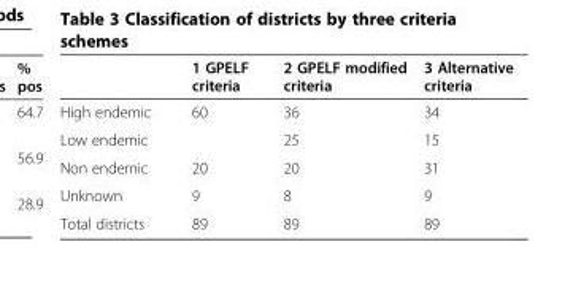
<table><thead><tr><td></td><td>1 GPELF criteria</td><td>2 GPELF modified criteria</td><td>3 Alternative criteria</td></tr></thead><tbody><tr><td>High endemic</td><td rowspan="2">60</td><td>36</td><td>34</td></tr><tr><td>Low endemic</td><td>25</td><td>15</td></tr><tr><td>Non endemic</td><td>20</td><td>20</td><td>31</td></tr><tr><td>Unknown</td><td>9</td><td>8</td><td>9</td></tr><tr><td>Total districts</td><td>89</td><td>89</td><td>89</td></tr></tbody></table>